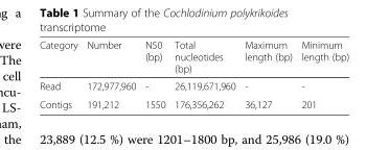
<table><thead><tr><td>Category</td><td>Number</td><td>N50 (bp)</td><td>Total nucleotides (bp)</td><td>Maximum length (bp)</td><td>Minimum length (bp)</td></tr></thead><tbody><tr><td>Read</td><td>172,977,960</td><td>-</td><td>26,119,671,960</td><td>-</td><td>-</td></tr><tr><td>Contigs</td><td>191,212</td><td>1550</td><td>176,356,262</td><td>36,127</td><td>201</td></tr></tbody></table>